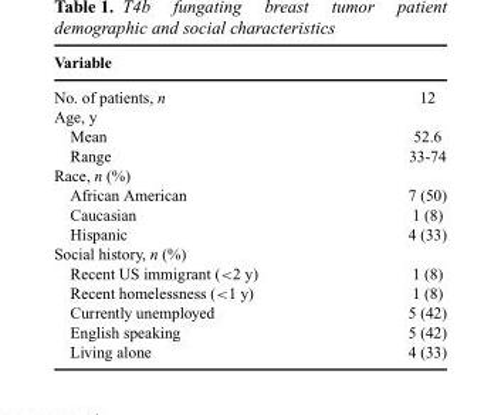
<table><thead><tr><td>Variable</td><td></td></tr></thead><tbody><tr><td>No. of patients, n</td><td>12</td></tr><tr><td colspan="2">Age, y</td></tr><tr><td>Mean</td><td>52.6</td></tr><tr><td>Range</td><td>33-74</td></tr><tr><td colspan="2">Race, n (%)</td></tr><tr><td>African American</td><td>7 (50)</td></tr><tr><td>Caucasian</td><td>1 (8)</td></tr><tr><td>Hispanic</td><td>4 (33)</td></tr><tr><td colspan="2">Social history, n (%)</td></tr><tr><td>Recent US immigrant (&lt;2 y)</td><td>1 (8)</td></tr><tr><td>Recent homelessness (&lt;1 y)</td><td>1 (8)</td></tr><tr><td>Currently unemployed</td><td>5 (42)</td></tr><tr><td>English speaking</td><td>5 (42)</td></tr><tr><td>Living alone</td><td>4 (33)</td></tr></tbody></table>